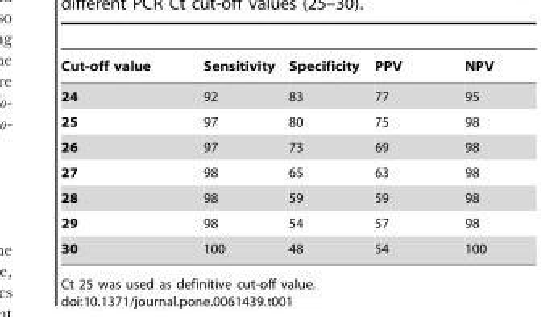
<table><thead><tr><td>Cut-off value</td><td>Sensitivity</td><td>Specificity</td><td>PPV</td><td>NPV</td></tr></thead><tbody><tr><td>24</td><td>92</td><td>83</td><td>77</td><td>95</td></tr><tr><td>25</td><td>97</td><td>80</td><td>75</td><td>98</td></tr><tr><td>26</td><td>97</td><td>73</td><td>69</td><td>98</td></tr><tr><td>27</td><td>98</td><td>65</td><td>63</td><td>98</td></tr><tr><td>28</td><td>98</td><td>59</td><td>59</td><td>98</td></tr><tr><td>29</td><td>98</td><td>54</td><td>57</td><td>98</td></tr><tr><td>30</td><td>100</td><td>48</td><td>54</td><td>100</td></tr></tbody></table>